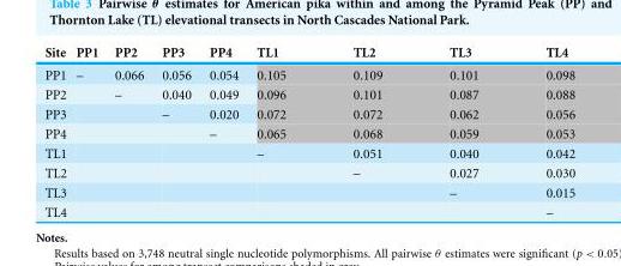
<table><thead><tr><td>Site</td><td>PP1</td><td>PP2</td><td>PP3</td><td>PP4</td><td>TL1</td><td>TL2</td><td>TL3</td><td>TL4</td></tr></thead><tbody><tr><td>PP1</td><td>–</td><td>0.066</td><td>0.056</td><td>0.054</td><td>0.105</td><td>0.109</td><td>0.101</td><td>0.098</td></tr><tr><td>PP2</td><td></td><td>–</td><td>0.040</td><td>0.049</td><td>0.096</td><td>0.101</td><td>0.087</td><td>0.088</td></tr><tr><td>PP3</td><td></td><td></td><td>–</td><td>0.020</td><td>0.072</td><td>0.072</td><td>0.062</td><td>0.056</td></tr><tr><td>PP4</td><td></td><td></td><td></td><td>–</td><td>0.065</td><td>0.068</td><td>0.059</td><td>0.053</td></tr><tr><td>TL1</td><td></td><td></td><td></td><td></td><td>–</td><td>0.051</td><td>0.040</td><td>0.042</td></tr><tr><td>TL2</td><td></td><td></td><td></td><td></td><td></td><td>–</td><td>0.027</td><td>0.030</td></tr><tr><td>TL3</td><td></td><td></td><td></td><td></td><td></td><td></td><td>–</td><td>0.015</td></tr><tr><td>TL4</td><td></td><td></td><td></td><td></td><td></td><td></td><td></td><td>–</td></tr></tbody></table>